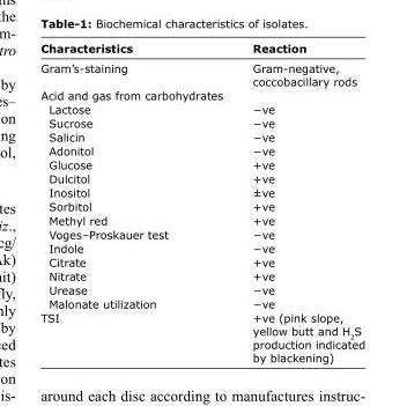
<table><thead><tr><td>Characteristics</td><td>Reaction</td></tr></thead><tbody><tr><td>Gram’s-staining</td><td>Gram-negative, coccobacillary rods</td></tr><tr><td colspan="2">Acid and gas from carbohydrates</td></tr><tr><td>Lactose</td><td>−ve</td></tr><tr><td>Sucrose</td><td>−ve</td></tr><tr><td>Salicin</td><td>−ve</td></tr><tr><td>Adonitol</td><td>−ve</td></tr><tr><td>Glucose</td><td>+ve</td></tr><tr><td>Dulcitol</td><td>+ve</td></tr><tr><td>Inositol</td><td>±ve</td></tr><tr><td>Sorbitol</td><td>+ve</td></tr><tr><td>Methyl red</td><td>+ve</td></tr><tr><td>Voges–Proskauer test</td><td>−ve</td></tr><tr><td>Indole</td><td>−ve</td></tr><tr><td>Citrate</td><td>+ve</td></tr><tr><td>Nitrate</td><td>+ve</td></tr><tr><td>Urease</td><td>−ve</td></tr><tr><td>Malonate utilization</td><td>−ve</td></tr><tr><td>TSI</td><td>+ve (pink slope, yellow butt and H<sub>2</sub>S production indicated by blackening)</td></tr></tbody></table>